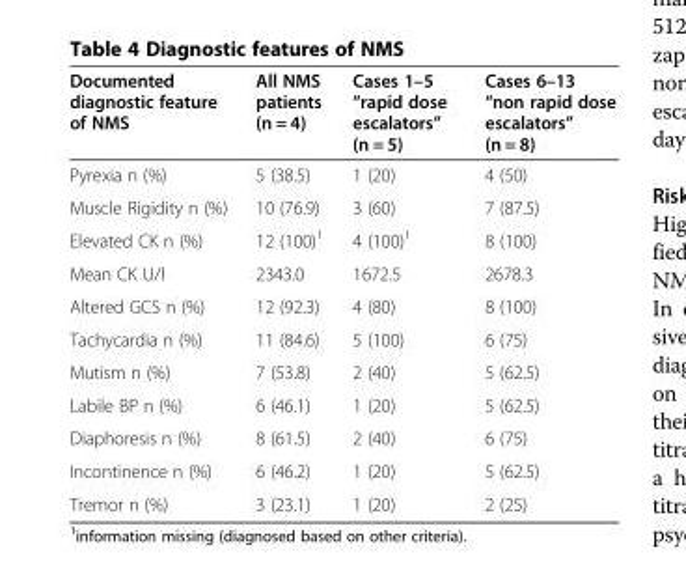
<table><thead><tr><td>Documented diagnostic feature of NMS</td><td>All NMS patients (n = 4)</td><td>Cases 1–5 “rapid dose escalators” (n = 5)</td><td>Cases 6–13 “non rapid dose escalators” (n = 8)</td></tr></thead><tbody><tr><td>Pyrexia n (%)</td><td>5 (38.5)</td><td>1 (20)</td><td>4 (50)</td></tr><tr><td>Muscle Rigidity n (%)</td><td>10 (76.9)</td><td>3 (60)</td><td>7 (87.5)</td></tr><tr><td>Elevated CK n (%)</td><td>12 (100)<sup>1</sup></td><td>4 (100)<sup>1</sup></td><td>8 (100)</td></tr><tr><td>Mean CK U/l</td><td>2343.0</td><td>1672.5</td><td>2678.3</td></tr><tr><td>Altered GCS n (%)</td><td>12 (92.3)</td><td>4 (80)</td><td>8 (100)</td></tr><tr><td>Tachycardia n (%)</td><td>11 (84.6)</td><td>5 (100)</td><td>6 (75)</td></tr><tr><td>Mutism n (%)</td><td>7 (53.8)</td><td>2 (40)</td><td>5 (62.5)</td></tr><tr><td>Labile BP n (%)</td><td>6 (46.1)</td><td>1 (20)</td><td>5 (62.5)</td></tr><tr><td>Diaphoresis n (%)</td><td>8 (61.5)</td><td>2 (40)</td><td>6 (75)</td></tr><tr><td>Incontinence n (%)</td><td>6 (46.2)</td><td>1 (20)</td><td>5 (62.5)</td></tr><tr><td>Tremor n (%)</td><td>3 (23.1)</td><td>1 (20)</td><td>2 (25)</td></tr></tbody></table>